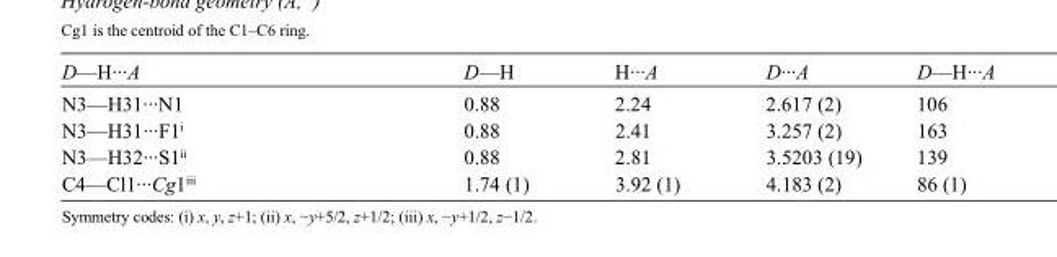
<table><tbody><tr><td>D—H···A</td><td>D—H</td><td>H···A</td><td>D···A</td><td>D—H···A</td></tr><tr><td>N3—H31···N1</td><td>0.88</td><td>2.24</td><td>2.617 (2)</td><td>106</td></tr><tr><td>N3—H31···F1<sup>i</sup></td><td>0.88</td><td>2.41</td><td>3.257 (2)</td><td>163</td></tr><tr><td>N3—H32···S1<sup>ii</sup></td><td>0.88</td><td>2.81</td><td>3.5203 (19)</td><td>139</td></tr><tr><td>C4—Cl1···Cg1<sup>iii</sup></td><td>1.74 (1)</td><td>3.92 (1)</td><td>4.183 (2)</td><td>86 (1)</td></tr></tbody></table>